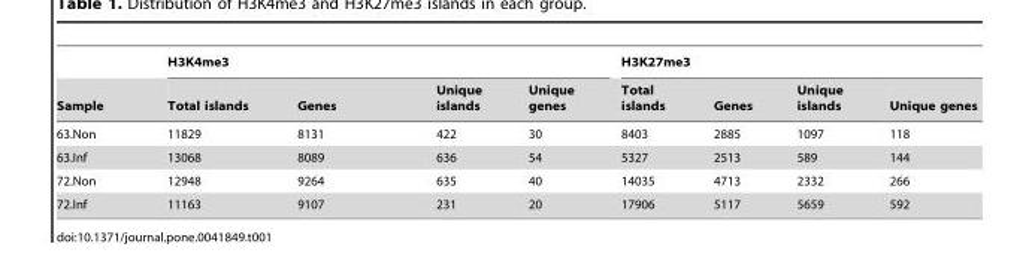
<table><thead><tr><td rowspan="2">Sample</td><td colspan="4">H3K4me3</td><td colspan="4">H3K27me3</td></tr><tr><td>Total islands</td><td>Genes</td><td>Unique islands</td><td>Unique genes</td><td>Total islands</td><td>Genes</td><td>Unique islands</td><td>Unique genes</td></tr></thead><tbody><tr><td>63.Non</td><td>11829</td><td>8131</td><td>422</td><td>30</td><td>8403</td><td>2885</td><td>1097</td><td>118</td></tr><tr><td>63.Inf</td><td>13068</td><td>8089</td><td>636</td><td>54</td><td>5327</td><td>2513</td><td>589</td><td>144</td></tr><tr><td>72.Non</td><td>12948</td><td>9264</td><td>635</td><td>40</td><td>14035</td><td>4713</td><td>2332</td><td>266</td></tr><tr><td>72.Inf</td><td>11163</td><td>9107</td><td>231</td><td>20</td><td>17906</td><td>5117</td><td>5659</td><td>592</td></tr></tbody></table>